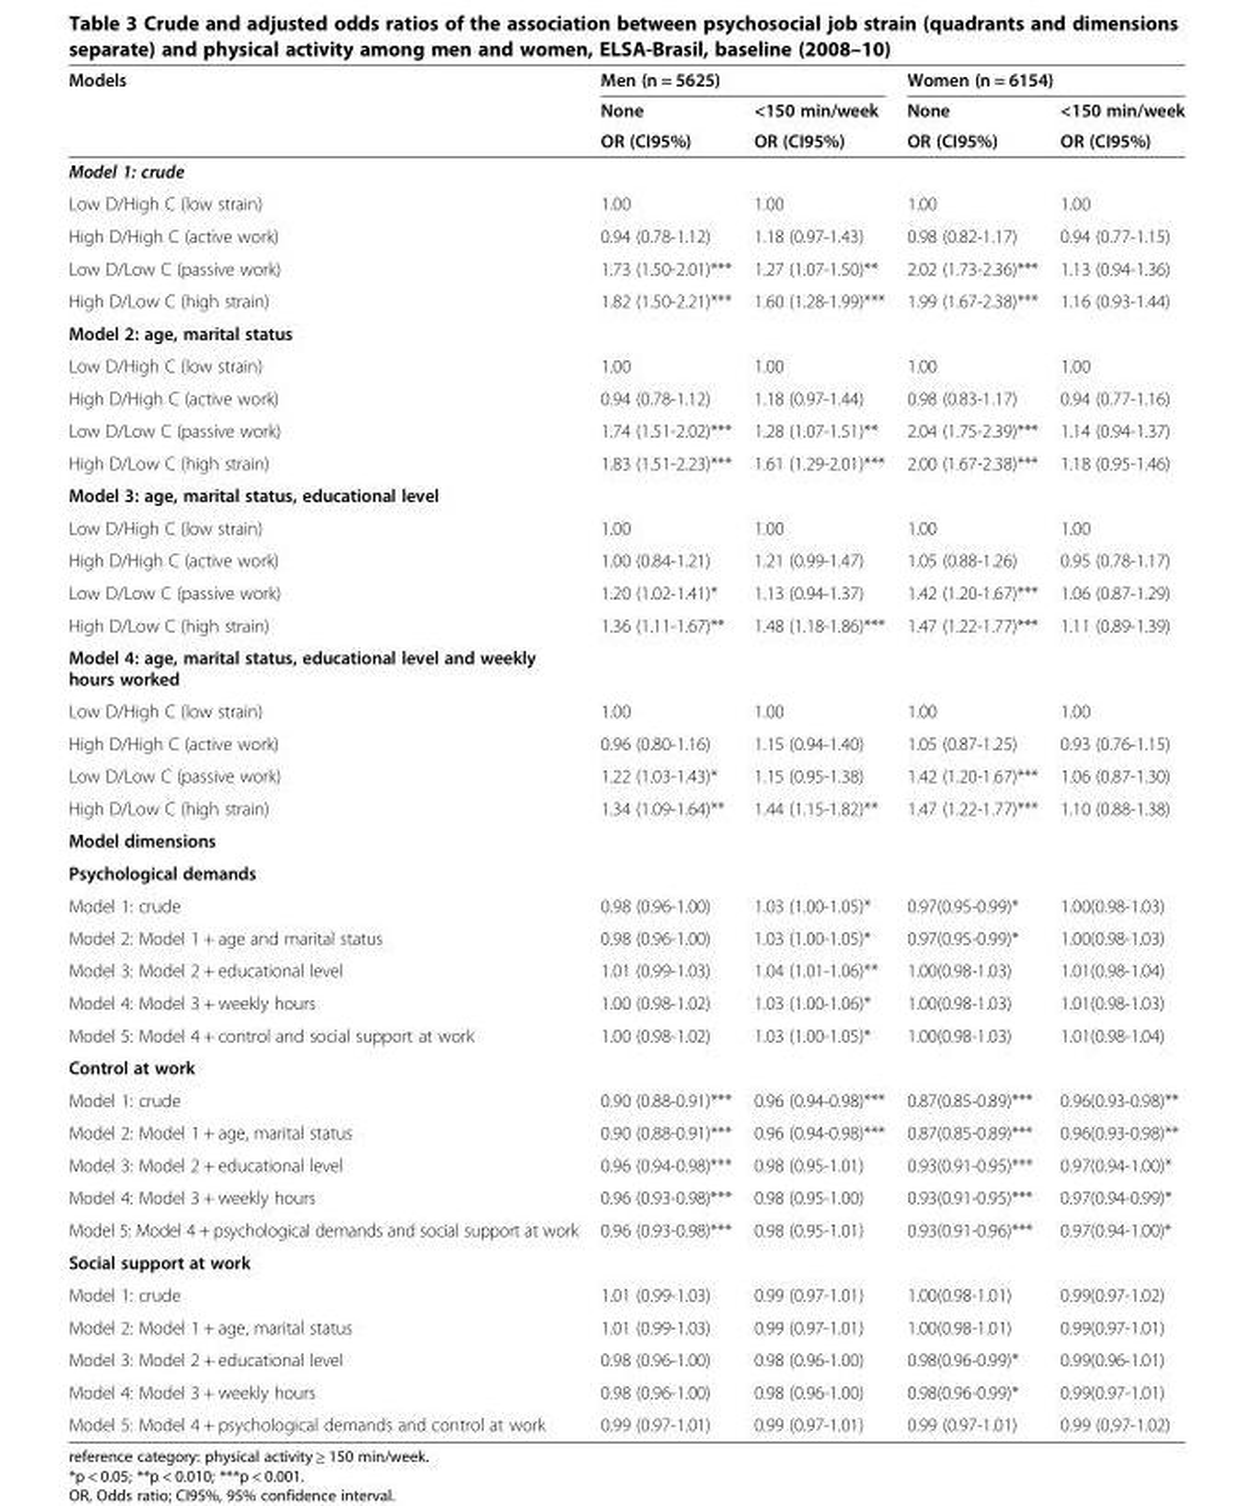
<table><thead><tr><td rowspan="3">Models</td><td colspan="2">Men (n = 5625)</td><td colspan="2">Women (n = 6154)</td></tr><tr><td rowspan="2">None OR (CI95%)</td><td rowspan="2">&lt;150 min/week OR (CI95%)</td><td rowspan="2">None OR (CI95%)</td><td rowspan="2">&lt;150 min/week OR (CI95%)</td></tr><tr></tr></thead><tbody><tr><td colspan="5">Model 1: crude</td></tr><tr><td>Low D/High C (low strain)</td><td>1.00</td><td>1.00</td><td>1.00</td><td>1.00</td></tr><tr><td>High D/High C (active work)</td><td>0.94 (0.78-1.12)</td><td>1.18 (0.97-1.43)</td><td>0.98 (0.82-1.17)</td><td>0.94 (0.77-1.15)</td></tr><tr><td>Low D/Low C (passive work)</td><td>1.73 (1.50-2.01)***</td><td>1.27 (1.07-1.50)**</td><td>2.02 (1.73-2.36)***</td><td>1.13 (0.94-1.36)</td></tr><tr><td>High D/Low C (high strain)</td><td>1.82 (1.50-2.21)***</td><td>1.60 (1.28-1.99)***</td><td>1.99 (1.67-2.38)***</td><td>1.16 (0.93-1.44)</td></tr><tr><td colspan="5">Model 2: age, marital status</td></tr><tr><td>Low D/High C (low strain)</td><td>1.00</td><td>1.00</td><td>1.00</td><td>1.00</td></tr><tr><td>High D/High C (active work)</td><td>0.94 (0.78-1.12)</td><td>1.18 (0.97-1.44)</td><td>0.98 (0.83-1.17)</td><td>0.94 (0.77-1.16)</td></tr><tr><td>Low D/Low C (passive work)</td><td>1.74 (1.51-2.02)***</td><td>1.28 (1.07-1.51)**</td><td>2.04 (1.75-2.39)***</td><td>1.14 (0.94-1.37)</td></tr><tr><td>High D/Low C (high strain)</td><td>1.83 (1.51-2.23)***</td><td>1.61 (1.29-2.01)***</td><td>2.00 (1.67-2.38)***</td><td>1.18 (0.95-1.46)</td></tr><tr><td colspan="5">Model 3: age, marital status, educational level</td></tr><tr><td>Low D/High C (low strain)</td><td>1.00</td><td>1.00</td><td>1.00</td><td>1.00</td></tr><tr><td>High D/High C (active work)</td><td>1.00 (0.84-1.21)</td><td>1.21 (0.99-1.47)</td><td>1.05 (0.88-1.26)</td><td>0.95 (0.78-1.17)</td></tr><tr><td>Low D/Low C (passive work)</td><td>1.20 (1.02-1.41)*</td><td>1.13 (0.94-1.37)</td><td>1.42 (1.20-1.67)***</td><td>1.06 (0.87-1.29)</td></tr><tr><td>High D/Low C (high strain)</td><td>1.36 (1.11-1.67)**</td><td>1.48 (1.18-1.86)***</td><td>1.47 (1.22-1.77)***</td><td>1.11 (0.89-1.39)</td></tr><tr><td colspan="5">Model 4: age, marital status, educational level and weekly hours worked</td></tr><tr><td>Low D/High C (low strain)</td><td>1.00</td><td>1.00</td><td>1.00</td><td>1.00</td></tr><tr><td>High D/High C (active work)</td><td>0.96 (0.80-1.16)</td><td>1.15 (0.94-1.40)</td><td>1.05 (0.87-1.25)</td><td>0.93 (0.76-1.15)</td></tr><tr><td>Low D/Low C (passive work)</td><td>1.22 (1.03-1.43)*</td><td>1.15 (0.95-1.38)</td><td>1.42 (1.20-1.67)***</td><td>1.06 (0.87-1.30)</td></tr><tr><td>High D/Low C (high strain)</td><td>1.34 (1.09-1.64)**</td><td>1.44 (1.15-1.82)**</td><td>1.47 (1.22-1.77)***</td><td>1.10 (0.88-1.38)</td></tr><tr><td colspan="5">Model dimensions</td></tr><tr><td colspan="5">Psychological demands</td></tr><tr><td>Model 1: crude</td><td>0.98 (0.96-1.00)</td><td>1.03 (1.00-1.05)*</td><td>0.97(0.95-0.99)*</td><td>1.00(0.98-1.03)</td></tr><tr><td>Model 2: Model 1 + age and marital status</td><td>0.98 (0.96-1.00)</td><td>1.03 (1.00-1.05)*</td><td>0.97(0.95-0.99)*</td><td>1.00(0.98-1.03)</td></tr><tr><td>Model 3: Model 2 + educational level</td><td>1.01 (0.99-1.03)</td><td>1.04 (1.01-1.06)**</td><td>1.00(0.98-1.03)</td><td>1.01(0.98-1.04)</td></tr><tr><td>Model 4: Model 3 + weekly hours</td><td>1.00 (0.98-1.02)</td><td>1.03 (1.00-1.06)*</td><td>1.00(0.98-1.03)</td><td>1.01(0.98-1.03)</td></tr><tr><td>Model 5: Model 4 + control and social support at work</td><td>1.00 (0.98-1.02)</td><td>1.03 (1.00-1.05)*</td><td>1.00(0.98-1.03)</td><td>1.01(0.98-1.04)</td></tr><tr><td colspan="5">Control at work</td></tr><tr><td>Model 1: crude</td><td>0.90 (0.88-0.91)***</td><td>0.96 (0.94-0.98)***</td><td>0.87(0.85-0.89)***</td><td>0.96(0.93-0.98)**</td></tr><tr><td>Model 2: Model 1 + age, marital status</td><td>0.90 (0.88-0.91)***</td><td>0.96 (0.94-0.98)***</td><td>0.87(0.85-0.89)***</td><td>0.96(0.93-0.98)**</td></tr><tr><td>Model 3: Model 2 + educational level</td><td>0.96 (0.94-0.98)***</td><td>0.98 (0.95-1.01)</td><td>0.93(0.91-0.95)***</td><td>0.97(0.94-1.00)*</td></tr><tr><td>Model 4: Model 3 + weekly hours</td><td>0.96 (0.93-0.98)***</td><td>0.98 (0.95-1.00)</td><td>0.93(0.91-0.95)***</td><td>0.97(0.94-0.99)*</td></tr><tr><td>Model 5: Model 4 + psychological demands and social support at work</td><td>0.96 (0.93-0.98)***</td><td>0.98 (0.95-1.01)</td><td>0.93(0.91-0.96)***</td><td>0.97(0.94-1.00)*</td></tr><tr><td colspan="5">Social support at work</td></tr><tr><td>Model 1: crude</td><td>1.01 (0.99-1.03)</td><td>0.99 (0.97-1.01)</td><td>1.00(0.98-1.01)</td><td>0.99(0.97-1.02)</td></tr><tr><td>Model 2: Model 1 + age, marital status</td><td>1.01 (0.99-1.03)</td><td>0.99 (0.97-1.01)</td><td>1.00(0.98-1.01)</td><td>0.99(0.97-1.01)</td></tr><tr><td>Model 3: Model 2 + educational level</td><td>0.98 (0.96-1.00)</td><td>0.98 (0.96-1.00)</td><td>0.98(0.96-0.99)*</td><td>0.99(0.96-1.01)</td></tr><tr><td>Model 4: Model 3 + weekly hours</td><td>0.98 (0.96-1.00)</td><td>0.98 (0.96-1.00)</td><td>0.98(0.96-0.99)*</td><td>0.99(0.97-1.01)</td></tr><tr><td>Model 5: Model 4 + psychological demands and control at work</td><td>0.99 (0.97-1.01)</td><td>0.99 (0.97-1.01)</td><td>0.99 (0.97-1.01)</td><td>0.99 (0,97-1.02)</td></tr></tbody></table>